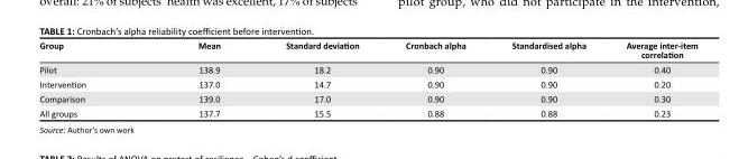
<table><thead><tr><td>Group</td><td>Mean</td><td>Standard deviation</td><td>Cronbach alpha</td><td>Standardised alpha</td><td>Average inter-item correlation</td></tr></thead><tbody><tr><td>Pilot</td><td>138.9</td><td>18.2</td><td>0.90</td><td>0.90</td><td>0.40</td></tr><tr><td>Intervention</td><td>137.0</td><td>14.7</td><td>0.90</td><td>0.90</td><td>0.20</td></tr><tr><td>Comparison</td><td>139.0</td><td>17.0</td><td>0.90</td><td>0.90</td><td>0.30</td></tr><tr><td>All groups</td><td>137.7</td><td>15.5</td><td>0.88</td><td>0.88</td><td>0.23</td></tr></tbody></table>